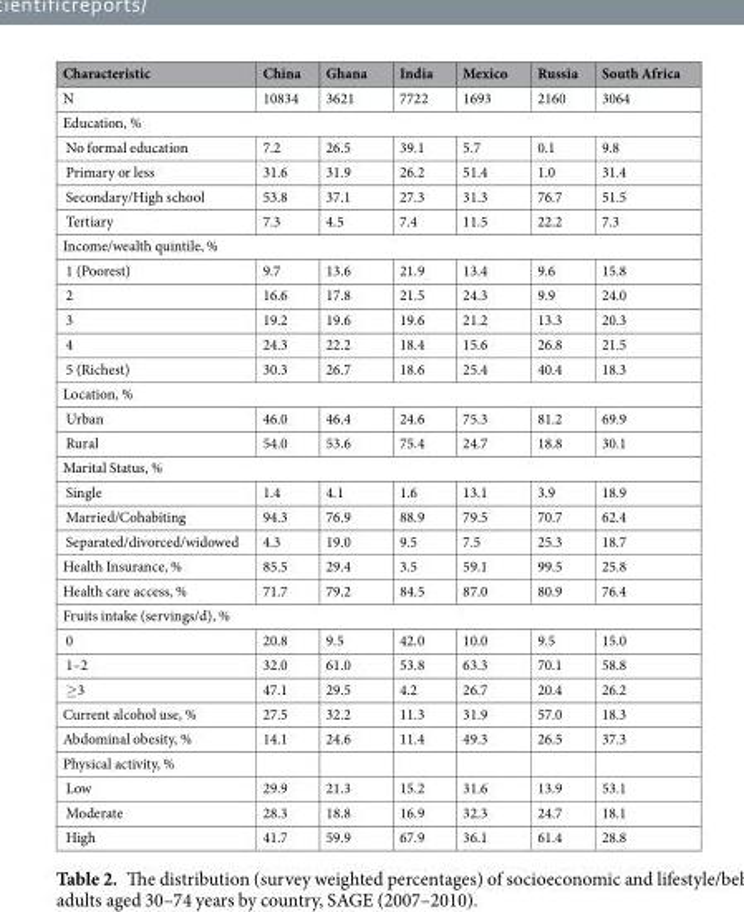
<table><thead><tr><td>Characteristic</td><td>China</td><td>Ghana</td><td>India</td><td>Mexico</td><td>Russia</td><td>South Africa</td></tr></thead><tbody><tr><td>N</td><td>10834</td><td>3621</td><td>7722</td><td>1693</td><td>2160</td><td>3064</td></tr><tr><td colspan="7">Education, %</td></tr><tr><td>No formal education</td><td>7.2</td><td>26.5</td><td>39.1</td><td>5.7</td><td>0.1</td><td>9.8</td></tr><tr><td>Primary or less</td><td>31.6</td><td>31.9</td><td>26.2</td><td>51.4</td><td>1.0</td><td>31.4</td></tr><tr><td>Secondary/High school</td><td>53.8</td><td>37.1</td><td>27.3</td><td>31.3</td><td>76.7</td><td>51.5</td></tr><tr><td>Tertiary</td><td>7.3</td><td>4.5</td><td>7.4</td><td>11.5</td><td>22.2</td><td>7.3</td></tr><tr><td colspan="7">Income/wealth quintile, %</td></tr><tr><td>1 (Poorest)</td><td>9.7</td><td>13.6</td><td>21.9</td><td>13.4</td><td>9.6</td><td>15.8</td></tr><tr><td>2</td><td>16.6</td><td>17.8</td><td>21.5</td><td>24.3</td><td>9.9</td><td>24.0</td></tr><tr><td>3</td><td>19.2</td><td>19.6</td><td>19.6</td><td>21.2</td><td>13.3</td><td>20.3</td></tr><tr><td>4</td><td>24.3</td><td>22.2</td><td>18.4</td><td>15.6</td><td>26.8</td><td>21.5</td></tr><tr><td>5 (Richest)</td><td>30.3</td><td>26.7</td><td>18.6</td><td>25.4</td><td>40.4</td><td>18.3</td></tr><tr><td colspan="7">Location, %</td></tr><tr><td>Urban</td><td>46.0</td><td>46.4</td><td>24.6</td><td>75.3</td><td>81.2</td><td>69.9</td></tr><tr><td>Rural</td><td>54.0</td><td>53.6</td><td>75.4</td><td>24.7</td><td>18.8</td><td>30.1</td></tr><tr><td colspan="7">Marital Status, %</td></tr><tr><td>Single</td><td>1.4</td><td>4.1</td><td>1.6</td><td>13.1</td><td>3.9</td><td>18.9</td></tr><tr><td>Married/Cohabiting</td><td>94.3</td><td>76.9</td><td>88.9</td><td>79.5</td><td>70.7</td><td>62.4</td></tr><tr><td>Separated/divorced/widowed</td><td>4.3</td><td>19.0</td><td>9.5</td><td>7.5</td><td>25.3</td><td>18.7</td></tr><tr><td>Health Insurance, %</td><td>85.5</td><td>29.4</td><td>3.5</td><td>59.1</td><td>99.5</td><td>25.8</td></tr><tr><td>Health care access, %</td><td>71.7</td><td>79.2</td><td>84.5</td><td>87.0</td><td>80.9</td><td>76.4</td></tr><tr><td colspan="7">Fruits intake (servings/d), %</td></tr><tr><td>0</td><td>20.8</td><td>9.5</td><td>42.0</td><td>10.0</td><td>9.5</td><td>15.0</td></tr><tr><td>1–2</td><td>32.0</td><td>61.0</td><td>53.8</td><td>63.3</td><td>70.1</td><td>58.8</td></tr><tr><td>≥3</td><td>47.1</td><td>29.5</td><td>4.2</td><td>26.7</td><td>20.4</td><td>26.2</td></tr><tr><td>Current alcohol use, %</td><td>27.5</td><td>32.2</td><td>11.3</td><td>31.9</td><td>57.0</td><td>18.3</td></tr><tr><td>Abdominal obesity, %</td><td>14.1</td><td>24.6</td><td>11.4</td><td>49.3</td><td>26.5</td><td>37.3</td></tr><tr><td colspan="7">Physical activity, %</td></tr><tr><td>Low</td><td>29.9</td><td>21.3</td><td>15.2</td><td>31.6</td><td>13.9</td><td>53.1</td></tr><tr><td>Moderate</td><td>28.3</td><td>18.8</td><td>16.9</td><td>32.3</td><td>24.7</td><td>18.1</td></tr><tr><td>High</td><td>41.7</td><td>59.9</td><td>67.9</td><td>36.1</td><td>61.4</td><td>28.8</td></tr></tbody></table>